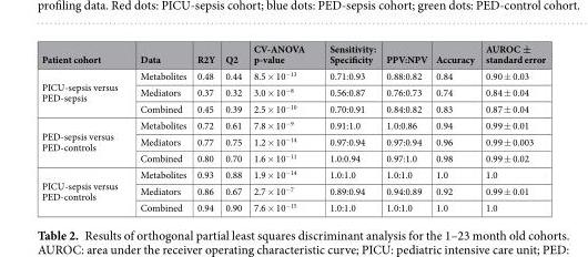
<table><thead><tr><td>Patient cohort</td><td>Data</td><td>R2Y</td><td>Q2</td><td>CV-ANOVA p-value</td><td>Sensitivity: Specificity</td><td>PPV:NPV</td><td>Accuracy</td><td>AUROC ± standard error</td></tr></thead><tbody><tr><td rowspan="3">PICU-sepsis versus PED-sepsis</td><td>Metabolites</td><td>0.48</td><td>0.44</td><td>8.5 × 10<sup>−13</sup></td><td>0.71:0.93</td><td>0.88:0.82</td><td>0.84</td><td>0.90 ± 0.03</td></tr><tr><td>Mediators</td><td>0.37</td><td>0.32</td><td>3.0 × 10<sup>−8</sup></td><td>0.56:0.87</td><td>0.76:0.73</td><td>0.74</td><td>0.84 ± 0.04</td></tr><tr><td>Combined</td><td>0.45</td><td>0.39</td><td>2.5 × 10<sup>−10</sup></td><td>0.70:0.91</td><td>0.84:0.82</td><td>0.83</td><td>0.87 ± 0.04</td></tr><tr><td rowspan="3">PED-sepsis versus PED-controls</td><td>Metabolites</td><td>0.72</td><td>0.61</td><td>7.8 × 10<sup>−9</sup></td><td>0.91:1.0</td><td>1.0:0.86</td><td>0.94</td><td>0.99 ± 0.01</td></tr><tr><td>Mediators</td><td>0.77</td><td>0.75</td><td>1.2 × 10<sup>−14</sup></td><td>0.97:0.94</td><td>0.97:0.94</td><td>0.96</td><td>0.99 ± 0.003</td></tr><tr><td>Combined</td><td>0.80</td><td>0.70</td><td>1.6 × 10<sup>−11</sup></td><td>1.0:0.94</td><td>0.97:1.0</td><td>0.98</td><td>0.99 ± 0.02</td></tr><tr><td rowspan="3">PICU-sepsis versus PED-controls</td><td>Metabolites</td><td>0.93</td><td>0.88</td><td>1.9 × 10<sup>−14</sup></td><td>1.0:1.0</td><td>1.0:1.0</td><td>1.0</td><td>1.0</td></tr><tr><td>Mediators</td><td>0.86</td><td>0.67</td><td>2.7 × 10<sup>−7</sup></td><td>0.89:0.94</td><td>0.94:0.89</td><td>0.92</td><td>0.99 ± 0.01</td></tr><tr><td>Combined</td><td>0.94</td><td>0.90</td><td>7.6 × 10<sup>−15</sup></td><td>1.0:1.0</td><td>1.0:1.0</td><td>1.0</td><td>1.0</td></tr></tbody></table>